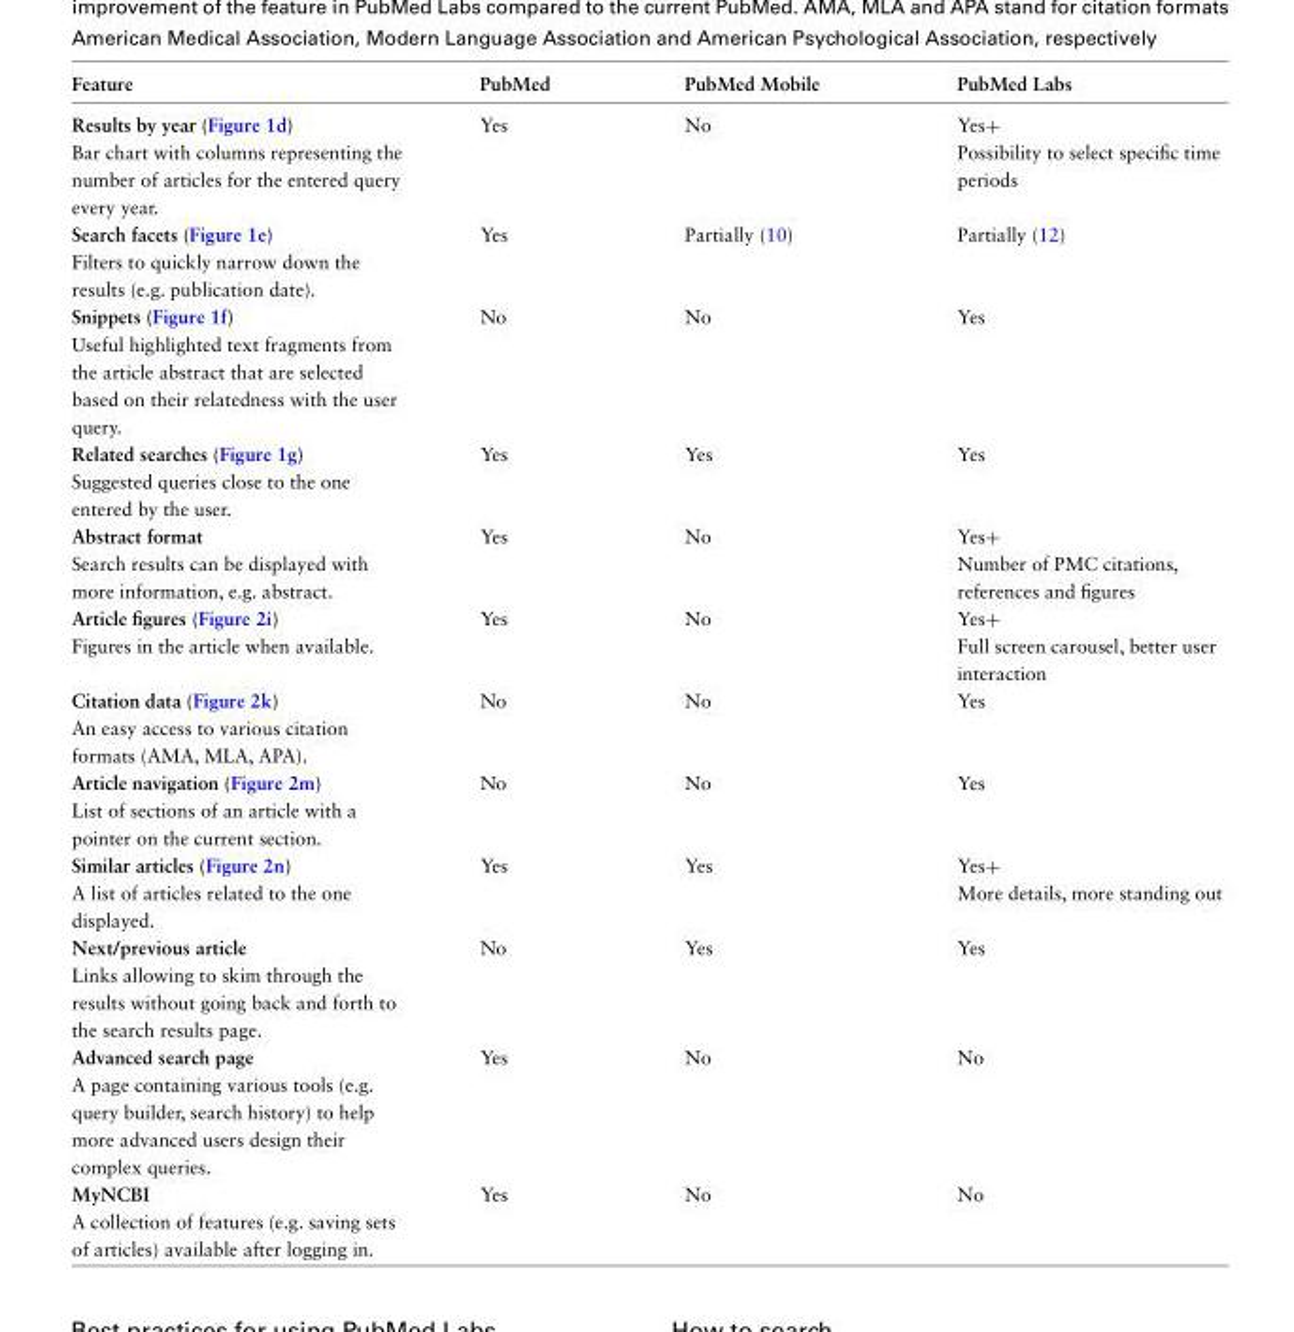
<table><thead><tr><td>Feature</td><td>PubMed</td><td>PubMed Mobile</td><td>PubMed Labs</td></tr></thead><tbody><tr><td>Results by year (Figure 1d) Bar chart with columns representing the number of articles for the entered query every year.</td><td>Yes</td><td>No</td><td>Yes+ Possibility to select specific time periods</td></tr><tr><td>Search facets (Figure 1e) Filters to quickly narrow down the results (e.g. publication date).</td><td>Yes</td><td>Partially (10)</td><td>Partially (12)</td></tr><tr><td>Snippets (Figure 1f) Useful highlighted text fragments from the article abstract that are selected based on their relatedness with the user query.</td><td>No</td><td>No</td><td>Yes</td></tr><tr><td>Related searches (Figure 1g) Suggested queries close to the one entered by the user.</td><td>Yes</td><td>Yes</td><td>Yes</td></tr><tr><td>Abstract format Search results can be displayed with more information, e.g. abstract.</td><td>Yes</td><td>No</td><td>Yes+ Number of PMC citations, references and figures</td></tr><tr><td>Article figures (Figure 2i) Figures in the article when available.</td><td>Yes</td><td>No</td><td>Yes+ Full screen carousel, better user interaction</td></tr><tr><td>Citation data (Figure 2k) An easy access to various citation formats (AMA, MLA, APA).</td><td>No</td><td>No</td><td>Yes</td></tr><tr><td>Article navigation (Figure 2m) List of sections of an article with a pointer on the current section.</td><td>No</td><td>No</td><td>Yes</td></tr><tr><td>Similar articles (Figure 2n) A list of articles related to the one displayed.</td><td>Yes</td><td>Yes</td><td>Yes+ More details, more standing out</td></tr><tr><td>Next/previous article Links allowing to skim through the results without going back and forth to the search results page.</td><td>No</td><td>Yes</td><td>Yes</td></tr><tr><td>Advanced search page A page containing various tools (e.g. query builder, search history) to help more advanced users design their complex queries.</td><td>Yes</td><td>No</td><td>No</td></tr><tr><td>MyNCBI A collection of features (e.g. saving sets of articles) available after logging in.</td><td>Yes</td><td>No</td><td>No</td></tr></tbody></table>